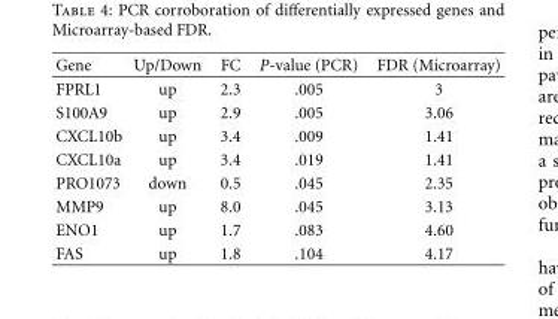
<table><thead><tr><td>Gene</td><td>Up/Down</td><td>FC</td><td>P-value (PCR)</td><td>FDR (Microarray)</td></tr></thead><tbody><tr><td>FPRL1</td><td>up</td><td>2.3</td><td>.005</td><td>3</td></tr><tr><td>S100A9</td><td>up</td><td>2.9</td><td>.005</td><td>3.06</td></tr><tr><td>CXCL10b</td><td>up</td><td>3.4</td><td>.009</td><td>1.41</td></tr><tr><td>CXCL10a</td><td>up</td><td>3.4</td><td>.019</td><td>1.41</td></tr><tr><td>PRO1073</td><td>down</td><td>0.5</td><td>.045</td><td>2.35</td></tr><tr><td>MMP9</td><td>up</td><td>8.0</td><td>.045</td><td>3.13</td></tr><tr><td>ENO1</td><td>up</td><td>1.7</td><td>.083</td><td>4.60</td></tr><tr><td>FAS</td><td>up</td><td>1.8</td><td>.104</td><td>4.17</td></tr></tbody></table>